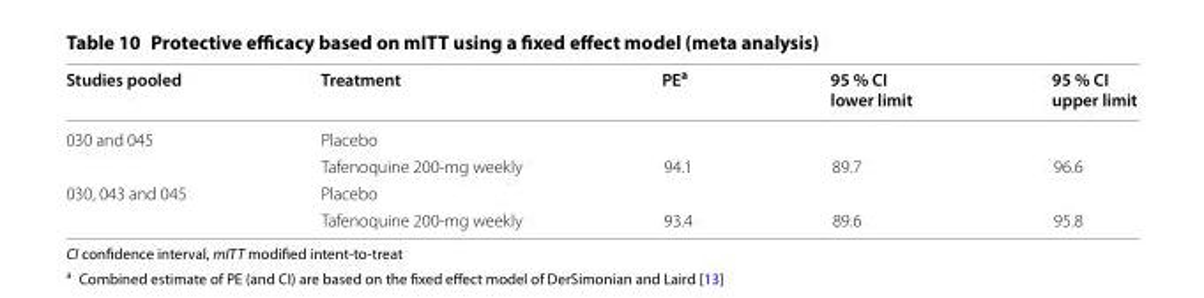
<table><thead><tr><td>Studies pooled</td><td>Treatment</td><td>PE<sup>a</sup></td><td>95 % CI lower limit</td><td>95 % CI upper limit</td></tr></thead><tbody><tr><td rowspan="2">030 and 045</td><td>Placebo</td><td></td><td></td><td></td></tr><tr><td>Tafenoquine 200-mg weekly</td><td>94.1</td><td>89.7</td><td>96.6</td></tr><tr><td rowspan="2">030, 043 and 045</td><td>Placebo</td><td></td><td></td><td></td></tr><tr><td>Tafenoquine 200-mg weekly</td><td>93.4</td><td>89.6</td><td>95.8</td></tr></tbody></table>